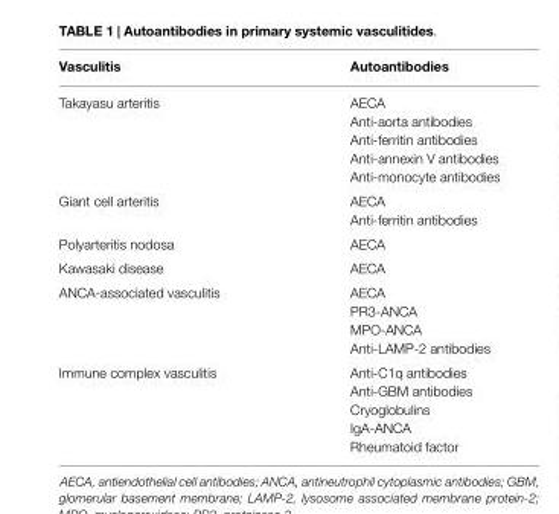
<table><thead><tr><td>Vasculitis</td><td>Autoantibodies</td></tr></thead><tbody><tr><td rowspan="5">Takayasu arteritis</td><td>AECA</td></tr><tr><td>Anti-aorta antibodies</td></tr><tr><td>Anti-ferritin antibodies</td></tr><tr><td>Anti-annexin V antibodies</td></tr><tr><td>Anti-monocyte antibodies</td></tr><tr><td rowspan="2">Giant cell arteritis</td><td>AECA</td></tr><tr><td>Anti-ferritin antibodies</td></tr><tr><td>Polyarteritis nodosa</td><td>AECA</td></tr><tr><td>Kawasaki disease</td><td>AECA</td></tr><tr><td rowspan="4">ANCA-associated vasculitis</td><td>AECA</td></tr><tr><td>PR3-ANCA</td></tr><tr><td>MPO-ANCA</td></tr><tr><td>Anti-LAMP-2 antibodies</td></tr><tr><td rowspan="5">Immune complex vasculitis</td><td>Anti-C1q antibodies</td></tr><tr><td>Anti-GBM antibodies</td></tr><tr><td>Cryoglobulins</td></tr><tr><td>IgA-ANCA</td></tr><tr><td>Rheumatoid factor</td></tr></tbody></table>